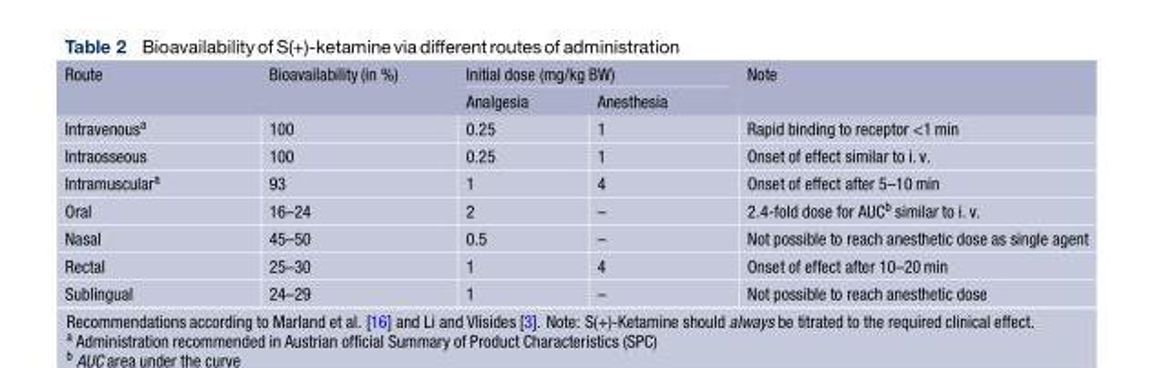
<table><thead><tr><td rowspan="2">Route</td><td rowspan="2">Bioavailability (in %)</td><td colspan="2">Initial dose (mg/kg BW)</td><td rowspan="2">Note</td></tr><tr><td>Analgesia</td><td>Anesthesia</td></tr></thead><tbody><tr><td>Intravenous<sup>a</sup></td><td>100</td><td>0.25</td><td>1</td><td>Rapid binding to receptor &lt;1 min</td></tr><tr><td>Intraosseous</td><td>100</td><td>0.25</td><td>1</td><td>Onset of effect similar to i. v.</td></tr><tr><td>Intramuscular<sup>a</sup></td><td>93</td><td>1</td><td>4</td><td>Onset of effect after 5–10 min</td></tr><tr><td>Oral</td><td>16–24</td><td>2</td><td>–</td><td>2.4-fold dose for AUC<sup>b</sup> similar to i. v.</td></tr><tr><td>Nasal</td><td>45–50</td><td>0.5</td><td>–</td><td>Not possible to reach anesthetic dose as single agent</td></tr><tr><td>Rectal</td><td>25–30</td><td>1</td><td>4</td><td>Onset of effect after 10–20 min</td></tr><tr><td>Sublingual</td><td>24–29</td><td>1</td><td>–</td><td>Not possible to reach anesthetic dose</td></tr></tbody></table>